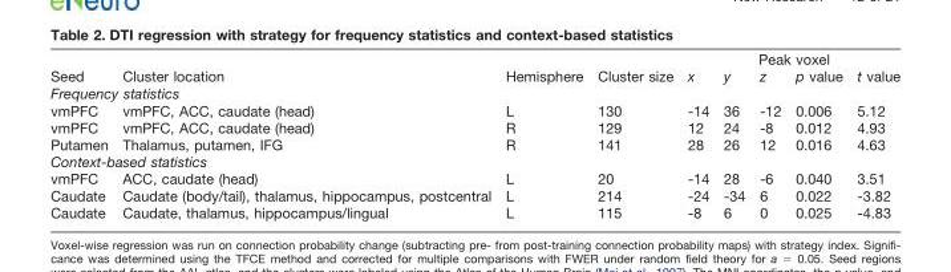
<table><thead><tr><td rowspan="2">Seed</td><td rowspan="2">Cluster location</td><td rowspan="2">Hemisphere</td><td rowspan="2">Cluster size</td><td colspan="5">Peak voxel</td></tr><tr><td>x</td><td>y</td><td>z</td><td>p value</td><td>t value</td></tr></thead><tbody><tr><td colspan="9">Frequency statistics</td></tr><tr><td>vmPFC</td><td>vmPFC, ACC, caudate (head)</td><td>L</td><td>130</td><td>-14</td><td>36</td><td>-12</td><td>0.006</td><td>5.12</td></tr><tr><td>vmPFC</td><td>vmPFC, ACC, caudate (head)</td><td>R</td><td>129</td><td>12</td><td>24</td><td>-8</td><td>0.012</td><td>4.93</td></tr><tr><td>Putamen</td><td>Thalamus, putamen, IFG</td><td>R</td><td>141</td><td>28</td><td>26</td><td>12</td><td>0.016</td><td>4.63</td></tr><tr><td colspan="9">Context-based statistics</td></tr><tr><td>vmPFC</td><td>ACC, caudate (head)</td><td>L</td><td>20</td><td>-14</td><td>28</td><td>-6</td><td>0.040</td><td>3.51</td></tr><tr><td>Caudate</td><td>Caudate (body/tail), thalamus, hippocampus, postcentral</td><td>L</td><td>214</td><td>-24</td><td>-34</td><td>6</td><td>0.022</td><td>-3.82</td></tr><tr><td>Caudate</td><td>Caudate, thalamus, hippocampus/lingual</td><td>L</td><td>115</td><td>-8</td><td>6</td><td>0</td><td>0.025</td><td>-4.83</td></tr></tbody></table>